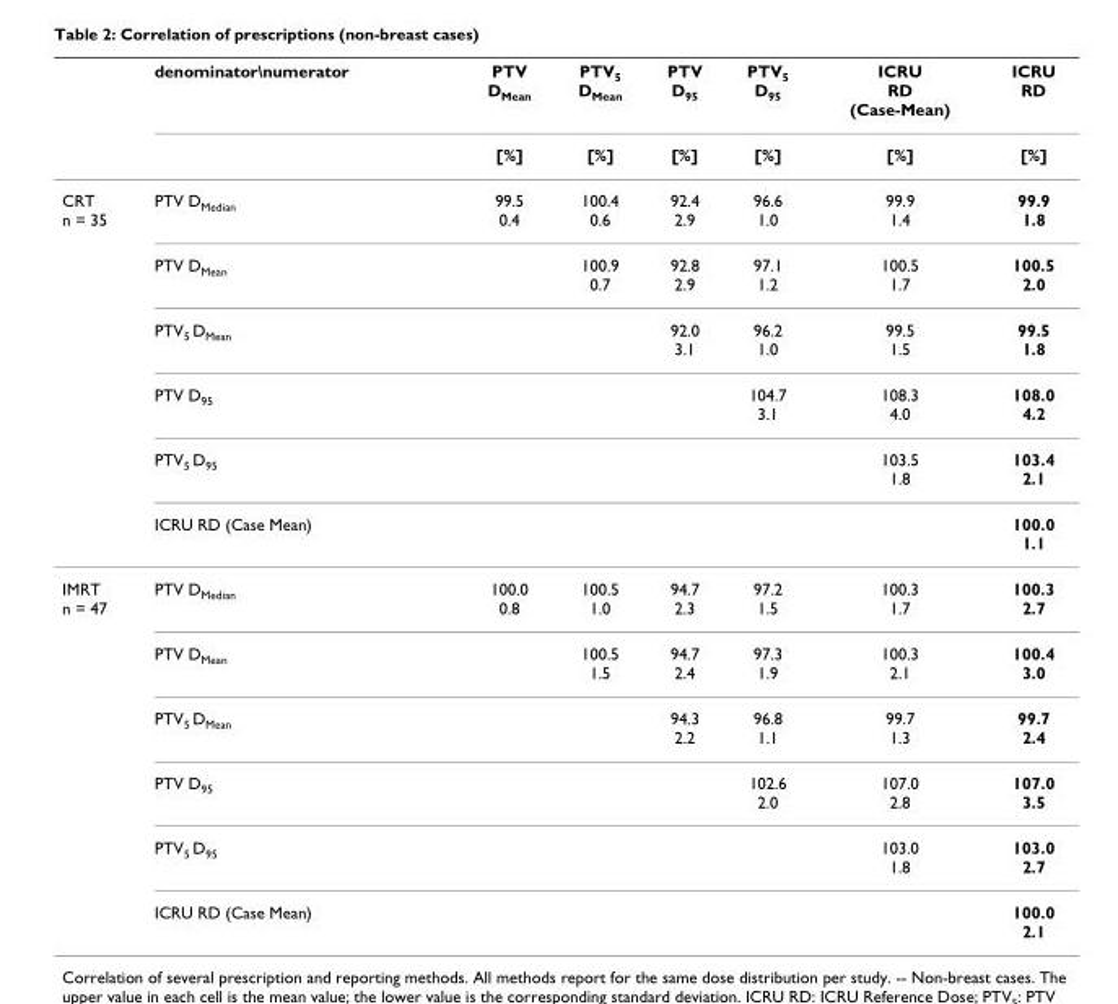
<table><thead><tr><td rowspan="2"></td><td rowspan="2">denominator\numerator</td><td rowspan="2">PTV DMean [%]</td><td rowspan="2">PTV5 DMean [%]</td><td rowspan="2">PTV D95 [%]</td><td rowspan="2">PTV5 D95 [%]</td><td rowspan="2">ICRU RD (Case-Mean) [%]</td><td rowspan="2">ICRU RD [%]</td></tr><tr></tr></thead><tbody><tr><td rowspan="6">CRT n = 35</td><td>PTV D<sub>Median</sub></td><td>99.5 0.4</td><td>100.4 0.6</td><td>92.4 2.9</td><td>96.6 1.0</td><td>99.9 1.4</td><td>99.9 1.8</td></tr><tr><td>PTV DMean</td><td></td><td>100.9 0.7</td><td>92.8 2.9</td><td>97.1 1.2</td><td>100.5 1.7</td><td>100.5 2.0</td></tr><tr><td>PTV5 DMean</td><td></td><td></td><td>92.0 3.1</td><td>96.2 1.0</td><td>99.5 1.5</td><td>99.5 1.8</td></tr><tr><td>PTV D95</td><td></td><td></td><td></td><td>104.7 3.1</td><td>108.3 4.0</td><td>108.0 4.2</td></tr><tr><td>PTV5 D95</td><td></td><td></td><td></td><td></td><td>103.5 1.8</td><td>103.4 2.1</td></tr><tr><td>ICRU RD (Case Mean)</td><td></td><td></td><td></td><td></td><td></td><td>100.0 1.1</td></tr><tr><td rowspan="6">IMRT n = 47</td><td>PTV D<sub>Median</sub></td><td>100.0 0.8</td><td>100.5 1.0</td><td>94.7 2.3</td><td>97.2 1.5</td><td>100.3 1.7</td><td>100.3 2.7</td></tr><tr><td>PTV DMean</td><td></td><td>100.5 1.5</td><td>94.7 2.4</td><td>97.3 1.9</td><td>100.3 2.1</td><td>100.4 3.0</td></tr><tr><td>PTV5 DMean</td><td></td><td></td><td>94.3 2.2</td><td>96.8 1.1</td><td>99.7 1.3</td><td>99.7 2.4</td></tr><tr><td>PTV D95</td><td></td><td></td><td></td><td>102.6 2.0</td><td>107.0 2.8</td><td>107.0 3.5</td></tr><tr><td>PTV5 D95</td><td></td><td></td><td></td><td></td><td>103.0 1.8</td><td>103.0 2.7</td></tr><tr><td>ICRU RD (Case Mean)</td><td></td><td></td><td></td><td></td><td></td><td>100.0 2.1</td></tr></tbody></table>